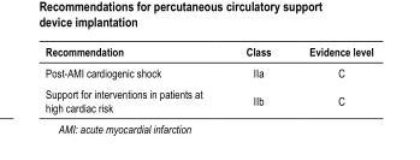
<table><thead><tr><td>Recommendation</td><td>Class</td><td>Evidence level</td></tr></thead><tbody><tr><td>Post‑AMI cardiogenic shock</td><td>IIa</td><td>C</td></tr><tr><td>Support for interventions in patients at high cardiac risk</td><td>IIb</td><td>C</td></tr></tbody></table>